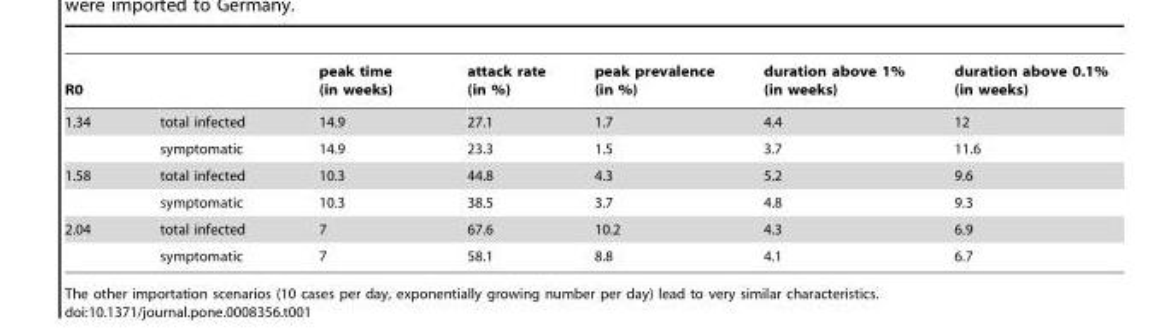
<table><thead><tr><td>R0</td><td></td><td>peak time (in weeks)</td><td>attack rate (in %)</td><td>peak prevalence (in %)</td><td>duration above 1% (in weeks)</td><td>duration above 0.1% (in weeks)</td></tr></thead><tbody><tr><td rowspan="2">1.34</td><td>total infected</td><td>14.9</td><td>27.1</td><td>1.7</td><td>4.4</td><td>12</td></tr><tr><td>symptomatic</td><td>14.9</td><td>23.3</td><td>1.5</td><td>3.7</td><td>11.6</td></tr><tr><td rowspan="2">1.58</td><td>total infected</td><td>10.3</td><td>44.8</td><td>4.3</td><td>5.2</td><td>9.6</td></tr><tr><td>symptomatic</td><td>10.3</td><td>38.5</td><td>3.7</td><td>4.8</td><td>9.3</td></tr><tr><td rowspan="2">2.04</td><td>total infected</td><td>7</td><td>67.6</td><td>10.2</td><td>4.3</td><td>6.9</td></tr><tr><td>symptomatic</td><td>7</td><td>58.1</td><td>8.8</td><td>4.1</td><td>6.7</td></tr></tbody></table>